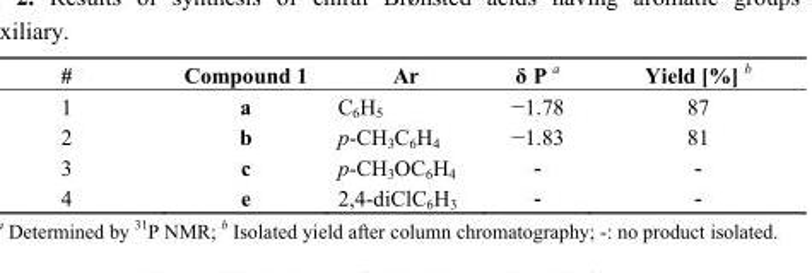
<table><thead><tr><td>#</td><td>Compound 1</td><td>Ar</td><td>δ P a</td><td>Yield [%] b</td></tr></thead><tbody><tr><td>1</td><td>a</td><td>C<sub>6</sub>H<sub>5</sub></td><td>−1.78</td><td>87</td></tr><tr><td>2</td><td>b</td><td>p-CH<sub>3</sub>C<sub>6</sub>H<sub>4</sub></td><td>−1.83</td><td>81</td></tr><tr><td>3</td><td>c</td><td>p-CH<sub>3</sub>OC<sub>6</sub>H<sub>4</sub></td><td>-</td><td>-</td></tr><tr><td>4</td><td>e</td><td>2,4-diClC<sub>6</sub>H<sub>3</sub></td><td>-</td><td>-</td></tr></tbody></table>